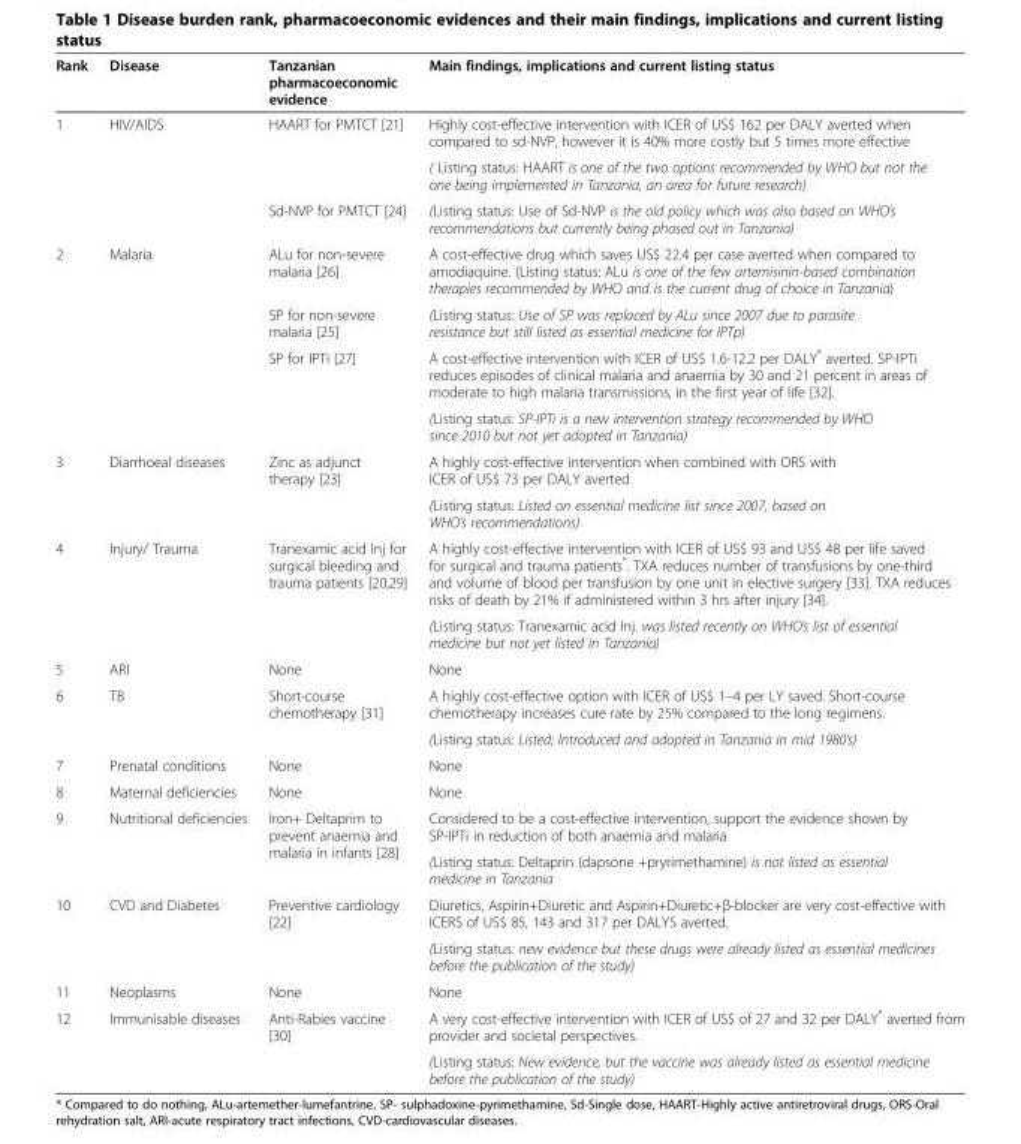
<table><thead><tr><td>Rank</td><td>Disease</td><td>Tanzanian pharmacoeconomic evidence</td><td>Main findings, implications and current listing status</td></tr></thead><tbody><tr><td rowspan="3">1</td><td rowspan="3">HIV/AIDS</td><td>HAART for PMTCT [21]</td><td>Highly cost-effective intervention with ICER of US$ 162 per DALY averted when compared to sd-NVP, however it is 40% more costly but 5 times more effective</td></tr><tr><td></td><td>( Listing status: HAART is one of the two options recommended by WHO but not the one being implemented in Tanzania, an area for future research)</td></tr><tr><td>Sd-NVP for PMTCT [24]</td><td>(Listing status: Use of Sd-NVP is the old policy which was also based on WHO’s recommendations but currently being phased out in Tanzania)</td></tr><tr><td rowspan="4">2</td><td rowspan="4">Malaria</td><td>ALu for non-severe malaria [26]</td><td>A cost-effective drug which saves US$ 22.4 per case averted when compared to amodiaquine. (Listing status: ALu is one of the few artemisinin-based combination therapies recommended by WHO and is the current drug of choice in Tanzania)</td></tr><tr><td>SP for non-severe malaria [25]</td><td>(Listing status: Use of SP was replaced by ALu since 2007 due to parasite resistance but still listed as essential medicine for IPTp)</td></tr><tr><td>SP for IPTi [27]</td><td>A cost-effective intervention with ICER of US$ 1.6-12.2 per DALY* averted. SP-IPTi reduces episodes of clinical malaria and anaemia by 30 and 21 percent in areas of moderate to high malaria transmissions, in the first year of life [32].</td></tr><tr><td></td><td>(Listing status: SP-IPTi is a new intervention strategy recommended by WHO since 2010 but not yet adopted in Tanzania)</td></tr><tr><td rowspan="2">3</td><td rowspan="2">Diarrhoeal diseases</td><td>Zinc as adjunct therapy [23]</td><td>A highly cost-effective intervention when combined with ORS with ICER of US$ 73 per DALY averted</td></tr><tr><td></td><td>(Listing status: Listed on essential medicine list since 2007, based on WHO’s recommendations)</td></tr><tr><td rowspan="2">4</td><td rowspan="2">Injury/ Trauma</td><td rowspan="2">Tranexamic acid Inj for surgical bleeding and trauma patients [20,29]</td><td>A highly cost-effective intervention with ICER of US$ 93 and US$ 48 per life saved for surgical and trauma patients*. TXA reduces number of transfusions by one-third and volume of blood per transfusion by one unit in elective surgery [33]. TXA reduces risks of death by 21% if administered within 3 hrs after injury [34].</td></tr><tr><td>(Listing status: Tranexamic acid Inj. was listed recently on WHO’s list of essential medicine but not yet listed in Tanzania)</td></tr><tr><td>5</td><td>ARI</td><td>None</td><td>None</td></tr><tr><td rowspan="2">6</td><td rowspan="2">TB</td><td rowspan="2">Short-course chemotherapy [31]</td><td>A highly cost-effective option with ICER of US$ 1–4 per LY saved. Short-course chemotherapy increases cure rate by 25% compared to the long regimens.</td></tr><tr><td>(Listing status: Listed; Introduced and adopted in Tanzania in mid 1980’s)</td></tr><tr><td>7</td><td>Prenatal conditions</td><td>None</td><td>None</td></tr><tr><td>8</td><td>Maternal deficiencies</td><td>None</td><td>None</td></tr><tr><td rowspan="2">9</td><td rowspan="2">Nutritional deficiencies</td><td rowspan="2">Iron+ Deltaprim to prevent anaemia and malaria in infants [28]</td><td>Considered to be a cost-effective intervention, support the evidence shown by SP-IPTi in reduction of both anaemia and malaria</td></tr><tr><td>(Listing status: Deltaprin (dapsone +pryrimethamine) is not listed as essential medicine in Tanzania</td></tr><tr><td rowspan="2">10</td><td rowspan="2">CVD and Diabetes</td><td rowspan="2">Preventive cardiology [22]</td><td>Diuretics, Aspirin+Diuretic and Aspirin+Diuretic+β-blocker are very cost-effective with ICERS of US$ 85, 143 and 317 per DALYS averted.</td></tr><tr><td>(Listing status: new evidence but these drugs were already listed as essential medicines before the publication of the study)</td></tr><tr><td>11</td><td>Neoplasms</td><td>None</td><td>None</td></tr><tr><td rowspan="2">12</td><td>Immunisable diseases</td><td>Anti-Rabies vaccine [30]</td><td>A very cost-effective intervention with ICER of US$ of 27 and 32 per DALY* averted from provider and societal perspectives.</td></tr><tr><td></td><td></td><td>(Listing status: New evidence, but the vaccine was already listed as essential medicine before the publication of the study)</td></tr></tbody></table>